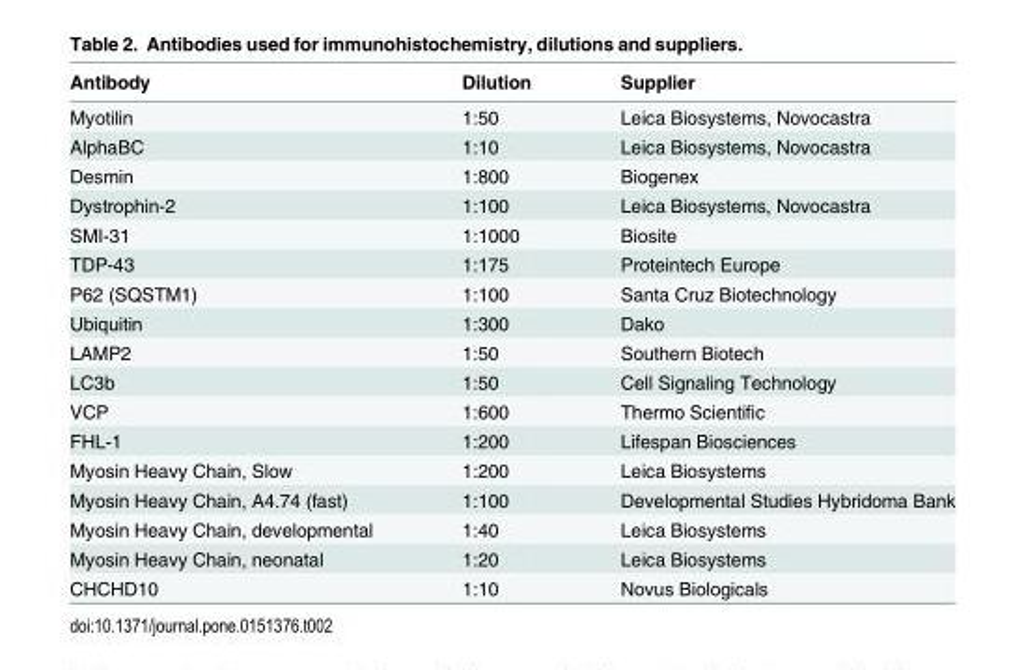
<table><thead><tr><td>Antibody</td><td>Dilution</td><td>Supplier</td></tr></thead><tbody><tr><td>Myotilin</td><td>1:50</td><td>Leica Biosystems, Novocastra</td></tr><tr><td>AlphaBC</td><td>1:10</td><td>Leica Biosystems, Novocastra</td></tr><tr><td>Desmin</td><td>1:800</td><td>Biogenex</td></tr><tr><td>Dystrophin-2</td><td>1:100</td><td>Leica Biosystems, Novocastra</td></tr><tr><td>SMI-31</td><td>1:1000</td><td>Biosite</td></tr><tr><td>TDP-43</td><td>1:175</td><td>Proteintech Europe</td></tr><tr><td>P62 (SQSTM1)</td><td>1:100</td><td>Santa Cruz Biotechnology</td></tr><tr><td>Ubiquitin</td><td>1:300</td><td>Dako</td></tr><tr><td>LAMP2</td><td>1:50</td><td>Southern Biotech</td></tr><tr><td>LC3b</td><td>1:50</td><td>Cell Signaling Technology</td></tr><tr><td>VCP</td><td>1:600</td><td>Thermo Scientific</td></tr><tr><td>FHL-1</td><td>1:200</td><td>Lifespan Biosciences</td></tr><tr><td>Myosin Heavy Chain, Slow</td><td>1:200</td><td>Leica Biosystems</td></tr><tr><td>Myosin Heavy Chain, A4.74 (fast)</td><td>1:100</td><td>Developmental Studies Hybridoma Bank</td></tr><tr><td>Myosin Heavy Chain, developmental</td><td>1:40</td><td>Leica Biosystems</td></tr><tr><td>Myosin Heavy Chain, neonatal</td><td>1:20</td><td>Leica Biosystems</td></tr><tr><td>CHCHD10</td><td>1:10</td><td>Novus Biologicals</td></tr></tbody></table>